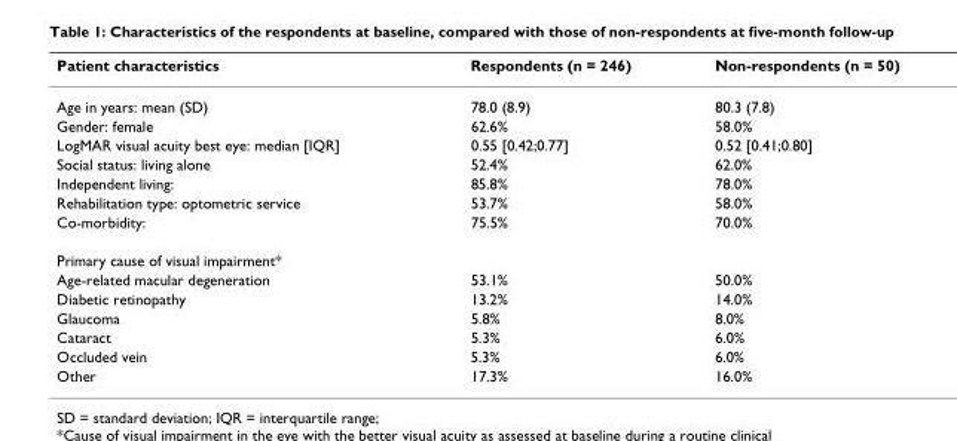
<table><thead><tr><td>Patient characteristics</td><td>Respondents (n = 246)</td><td>Non-respondents (n = 50)</td></tr></thead><tbody><tr><td>Age in years: mean (SD)</td><td>78.0 (8.9)</td><td>80.3 (7.8)</td></tr><tr><td>Gender: female</td><td>62.6%</td><td>58.0%</td></tr><tr><td>LogMAR visual acuity best eye: median [IQR]</td><td>0.55 [0.42;0.77]</td><td>0.52 [0.41;0.80]</td></tr><tr><td>Social status: living alone</td><td>52.4%</td><td>62.0%</td></tr><tr><td>Independent living:</td><td>85.8%</td><td>78.0%</td></tr><tr><td>Rehabilitation type: optometric service</td><td>53.7%</td><td>58.0%</td></tr><tr><td>Co-morbidity:</td><td>75.5%</td><td>70.0%</td></tr><tr><td colspan="3">Primary cause of visual impairment*</td></tr><tr><td>Age-related macular degeneration</td><td>53.1%</td><td>50.0%</td></tr><tr><td>Diabetic retinopathy</td><td>13.2%</td><td>14.0%</td></tr><tr><td>Glaucoma</td><td>5.8%</td><td>8.0%</td></tr><tr><td>Cataract</td><td>5.3%</td><td>6.0%</td></tr><tr><td>Occluded vein</td><td>5.3%</td><td>6.0%</td></tr><tr><td>Other</td><td>17.3%</td><td>16.0%</td></tr></tbody></table>